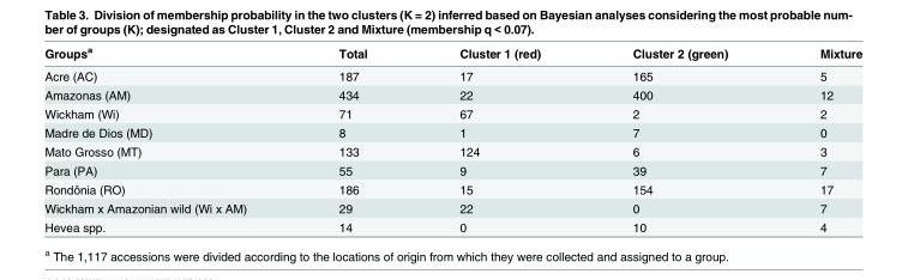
<table><thead><tr><td>Groups<sup>a</sup></td><td>Total</td><td>Cluster 1 (red)</td><td>Cluster 2 (green)</td><td>Mixture</td></tr></thead><tbody><tr><td>Acre (AC)</td><td>187</td><td>17</td><td>165</td><td>5</td></tr><tr><td>Amazonas (AM)</td><td>434</td><td>22</td><td>400</td><td>12</td></tr><tr><td>Wickham (Wi)</td><td>71</td><td>67</td><td>2</td><td>2</td></tr><tr><td>Madre de Dios (MD)</td><td>8</td><td>1</td><td>7</td><td>0</td></tr><tr><td>Mato Grosso (MT)</td><td>133</td><td>124</td><td>6</td><td>3</td></tr><tr><td>Para (PA)</td><td>55</td><td>9</td><td>39</td><td>7</td></tr><tr><td>Rondônia (RO)</td><td>186</td><td>15</td><td>154</td><td>17</td></tr><tr><td>Wickham x Amazonian wild (Wi x AM)</td><td>29</td><td>22</td><td>0</td><td>7</td></tr><tr><td>Hevea spp.</td><td>14</td><td>0</td><td>10</td><td>4</td></tr></tbody></table>